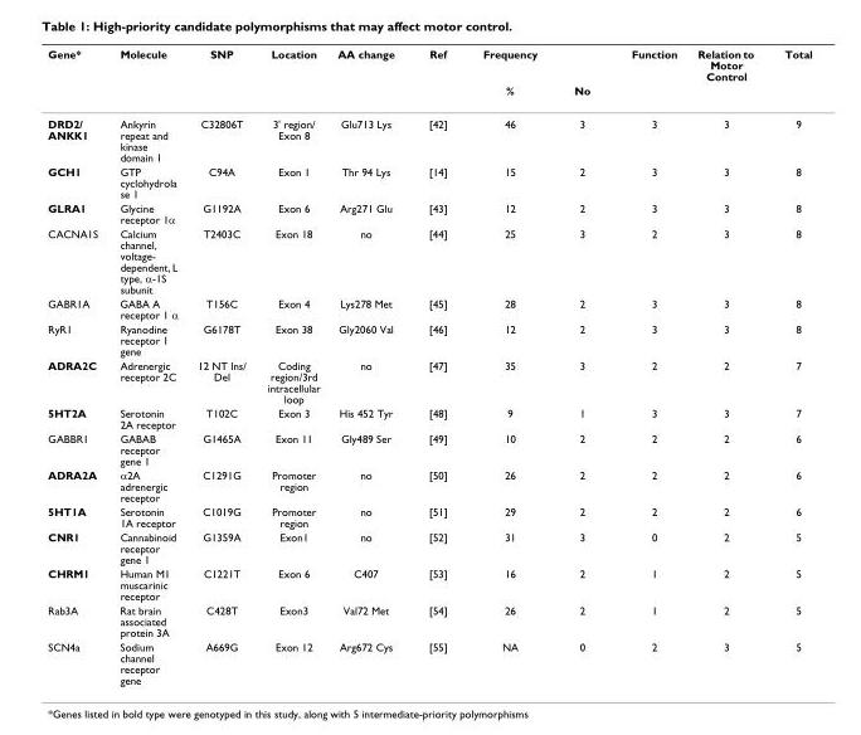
<table><thead><tr><td rowspan="2">Gene*</td><td rowspan="2">Molecule</td><td rowspan="2">SNP</td><td rowspan="2">Location</td><td rowspan="2">AA change</td><td rowspan="2">Ref</td><td rowspan="2">Frequency %</td><td rowspan="2">No</td><td rowspan="2">Function</td><td rowspan="2">Relation to Motor Control</td><td rowspan="2">Total</td></tr><tr></tr></thead><tbody><tr><td>DRD2/ ANKK1</td><td>Ankyrin repeat and kinase domain 1</td><td>C32806T</td><td>3&#x27; region/ Exon 8</td><td>Glu713 Lys</td><td>[42]</td><td>46</td><td>3</td><td>3</td><td>3</td><td>9</td></tr><tr><td>GCH1</td><td>GTP cyclohydrola se 1</td><td>C94A</td><td>Exon 1</td><td>Thr 94 Lys</td><td>[14]</td><td>15</td><td>2</td><td>3</td><td>3</td><td>8</td></tr><tr><td>GLRA1</td><td>Glycine receptor 1α</td><td>G1192A</td><td>Exon 6</td><td>Arg271 Glu</td><td>[43]</td><td>12</td><td>2</td><td>3</td><td>3</td><td>8</td></tr><tr><td>CACNA1S</td><td>Calcium channel, voltage- dependent, L type, α-1S subunit</td><td>T2403C</td><td>Exon 18</td><td>no</td><td>[44]</td><td>25</td><td>3</td><td>2</td><td>3</td><td>8</td></tr><tr><td>GABR1A</td><td>GABA A receptor 1 α</td><td>T156C</td><td>Exon 4</td><td>Lys278 Met</td><td>[45]</td><td>28</td><td>2</td><td>3</td><td>3</td><td>8</td></tr><tr><td>RyR1</td><td>Ryanodine receptor 1 gene</td><td>G6178T</td><td>Exon 38</td><td>Gly2060 Val</td><td>[46]</td><td>12</td><td>2</td><td>3</td><td>3</td><td>8</td></tr><tr><td>ADRA2C</td><td>Adrenergic receptor 2C</td><td>12 NT Ins/ Del</td><td>Coding region/3rd intracellular loop</td><td>no</td><td>[47]</td><td>35</td><td>3</td><td>2</td><td>2</td><td>7</td></tr><tr><td>5HT2A</td><td>Serotonin 2A receptor</td><td>T102C</td><td>Exon 3</td><td>His 452 Tyr</td><td>[48]</td><td>9</td><td>1</td><td>3</td><td>3</td><td>7</td></tr><tr><td>GABBR1</td><td>GABAB receptor gene 1</td><td>G1465A</td><td>Exon 11</td><td>Gly489 Ser</td><td>[49]</td><td>10</td><td>2</td><td>2</td><td>2</td><td>6</td></tr><tr><td>ADRA2A</td><td>α2A adrenergic receptor</td><td>C1291G</td><td>Promoter region</td><td>no</td><td>[50]</td><td>26</td><td>2</td><td>2</td><td>2</td><td>6</td></tr><tr><td>5HT1A</td><td>Serotonin 1A receptor</td><td>C1019G</td><td>Promoter region</td><td>no</td><td>[51]</td><td>29</td><td>2</td><td>2</td><td>2</td><td>6</td></tr><tr><td>CNR1</td><td>Cannabinoid receptor gene 1</td><td>G1359A</td><td>Exon1</td><td>no</td><td>[52]</td><td>31</td><td>3</td><td>0</td><td>2</td><td>5</td></tr><tr><td>CHRM1</td><td>Human M1 muscarinic receptor</td><td>C1221T</td><td>Exon 6</td><td>C407</td><td>[53]</td><td>16</td><td>2</td><td>1</td><td>2</td><td>5</td></tr><tr><td>Rab3A</td><td>Rat brain associated protein 3A</td><td>C428T</td><td>Exon3</td><td>Val72 Met</td><td>[54]</td><td>26</td><td>2</td><td>1</td><td>2</td><td>5</td></tr><tr><td>SCN4a</td><td>Sodium channel receptor gene</td><td>A669G</td><td>Exon 12</td><td>Arg672 Cys</td><td>[55]</td><td>NA</td><td>0</td><td>2</td><td>3</td><td>5</td></tr></tbody></table>